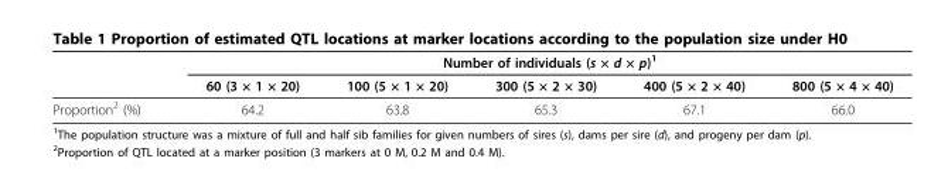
<table><thead><tr><td rowspan="2"></td><td colspan="5">Number of individuals (s × d × p)<sup>1</sup></td></tr><tr><td>60 (3 × 1 × 20)</td><td>100 (5 × 1 × 20)</td><td>300 (5 × 2 × 30)</td><td>400 (5 × 2 × 40)</td><td>800 (5 × 4 × 40)</td></tr></thead><tbody><tr><td>Proportion<sup>2</sup> (%)</td><td>64.2</td><td>63.8</td><td>65.3</td><td>67.1</td><td>66.0</td></tr></tbody></table>